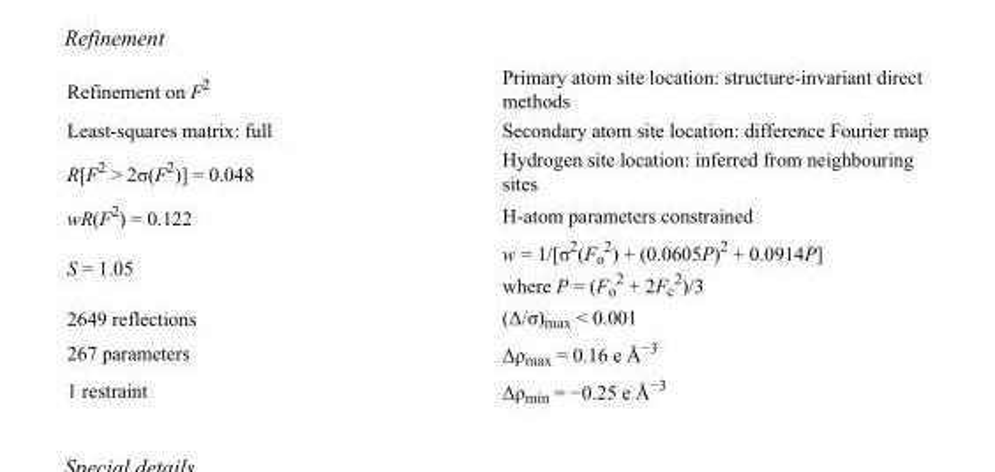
<table><tbody><tr><td>Refinement on F<sup>2</sup></td><td>Primary atom site location: structure-invariant direct methods</td></tr><tr><td>Least-squares matrix: full</td><td>Secondary atom site location: difference Fourier map</td></tr><tr><td>R[F<sup>2</sup> &gt; 2σ(F<sup>2</sup>)] = 0.048</td><td>Hydrogen site location: inferred from neighbouring sites</td></tr><tr><td>wR(F<sup>2</sup>) = 0.122</td><td>H-atom parameters constrained</td></tr><tr><td>S = 1.05</td><td>w = 1/[σ<sup>2</sup>(F<sub>o</sub> <sup>2</sup>) + (0.0605P)<sup>2</sup> + 0.0914P] where P = (F<sub>o</sub> <sup>2</sup> + 2F<sub>c</sub> <sup>2</sup>)/3</td></tr><tr><td>2649 reflections</td><td>(Δ/σ)<sub>max</sub> &lt; 0.001</td></tr><tr><td>267 parameters</td><td>Δρ<sub>max</sub> = 0.16 e Å<sup>−3</sup></td></tr><tr><td>1 restraint</td><td>Δρ<sub>min</sub> = −0.25 e Å<sup>−3</sup></td></tr></tbody></table>